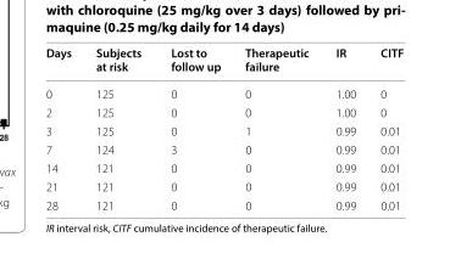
<table><thead><tr><td>Days</td><td>Subjects at risk</td><td>Lost to follow up</td><td>Therapeutic failure</td><td>IR</td><td>CITF</td></tr></thead><tbody><tr><td>0</td><td>125</td><td>0</td><td>0</td><td>1.00</td><td>0</td></tr><tr><td>2</td><td>125</td><td>0</td><td>0</td><td>1.00</td><td>0</td></tr><tr><td>3</td><td>125</td><td>0</td><td>1</td><td>0.99</td><td>0.01</td></tr><tr><td>7</td><td>124</td><td>3</td><td>0</td><td>0.99</td><td>0.01</td></tr><tr><td>14</td><td>121</td><td>0</td><td>0</td><td>0.99</td><td>0.01</td></tr><tr><td>21</td><td>121</td><td>0</td><td>0</td><td>0.99</td><td>0.01</td></tr><tr><td>28</td><td>121</td><td>0</td><td>0</td><td>0.99</td><td>0.01</td></tr></tbody></table>